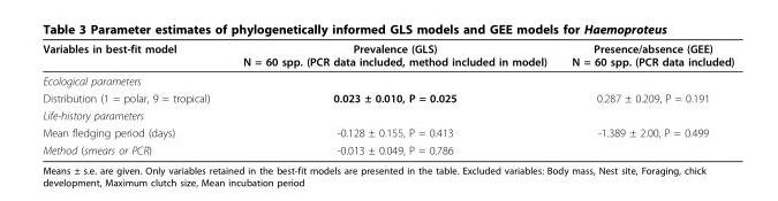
<table><thead><tr><td>Variables in best-fit model</td><td>Prevalence (GLS) N = 60 spp. (PCR data included, method included in model)</td><td>Presence/absence (GEE) N = 60 spp. (PCR data included)</td></tr></thead><tbody><tr><td colspan="3">Ecological parameters</td></tr><tr><td>Distribution (1 = polar, 9 = tropical)</td><td>0.023 ± 0.010, P = 0.025</td><td>0.287 ± 0.209, P = 0.191</td></tr><tr><td colspan="3">Life-history parameters</td></tr><tr><td>Mean fledging period (days)</td><td>-0.128 ± 0.155, P = 0.413</td><td>-1.389 ± 2.00, P = 0.499</td></tr><tr><td>Method (smears or PCR)</td><td>-0.013 ± 0.049, P = 0.786</td><td></td></tr></tbody></table>